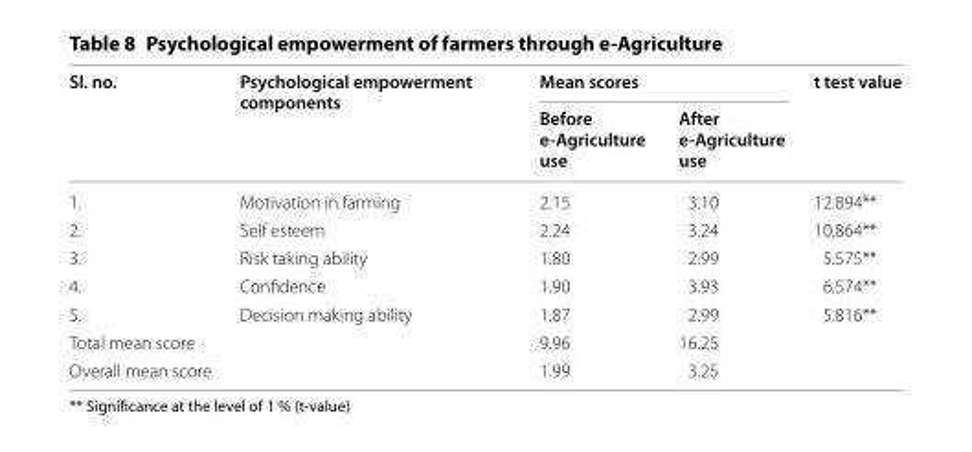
<table><thead><tr><td rowspan="2">Sl. no.</td><td rowspan="2">Psychological empowerment components</td><td colspan="2">Mean scores</td><td rowspan="2">t test value</td></tr><tr><td>Before e‑Agriculture use</td><td>After e‑Agriculture use</td></tr></thead><tbody><tr><td>1.</td><td>Motivation in farming</td><td>2.15</td><td>3.10</td><td>12.894**</td></tr><tr><td>2.</td><td>Self esteem</td><td>2.24</td><td>3.24</td><td>10.864**</td></tr><tr><td>3.</td><td>Risk taking ability</td><td>1.80</td><td>2.99</td><td>5.575**</td></tr><tr><td>4.</td><td>Confidence</td><td>1.90</td><td>3.93</td><td>6.574**</td></tr><tr><td>5.</td><td>Decision making ability</td><td>1.87</td><td>2.99</td><td>5.816**</td></tr><tr><td colspan="2">Total mean score</td><td>9.96</td><td>16.25</td><td></td></tr><tr><td colspan="2">Overall mean score</td><td>1.99</td><td>3.25</td><td></td></tr></tbody></table>